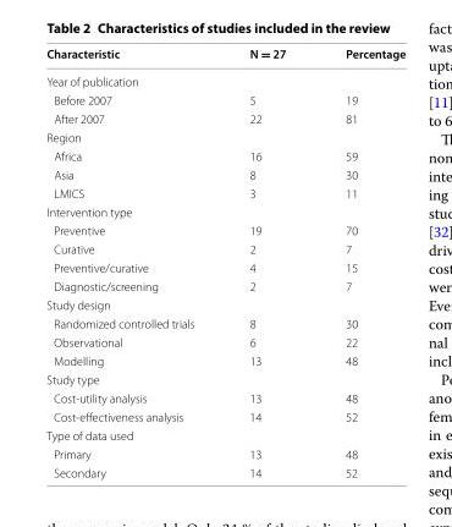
<table><thead><tr><td>Characteristic</td><td>N = 27</td><td>Percentage</td></tr></thead><tbody><tr><td colspan="3">Year of publication</td></tr><tr><td>Before 2007</td><td>5</td><td>19</td></tr><tr><td>After 2007</td><td>22</td><td>81</td></tr><tr><td colspan="3">Region</td></tr><tr><td>Africa</td><td>16</td><td>59</td></tr><tr><td>Asia</td><td>8</td><td>30</td></tr><tr><td>LMICS</td><td>3</td><td>11</td></tr><tr><td colspan="3">Intervention type</td></tr><tr><td>Preventive</td><td>19</td><td>70</td></tr><tr><td>Curative</td><td>2</td><td>7</td></tr><tr><td>Preventive/curative</td><td>4</td><td>15</td></tr><tr><td>Diagnostic/screening</td><td>2</td><td>7</td></tr><tr><td colspan="3">Study design</td></tr><tr><td>Randomized controlled trials</td><td>8</td><td>30</td></tr><tr><td>Observational</td><td>6</td><td>22</td></tr><tr><td>Modelling</td><td>13</td><td>48</td></tr><tr><td colspan="3">Study type</td></tr><tr><td>Cost-utility analysis</td><td>13</td><td>48</td></tr><tr><td>Cost-effectiveness analysis</td><td>14</td><td>52</td></tr><tr><td colspan="3">Type of data used</td></tr><tr><td>Primary</td><td>13</td><td>48</td></tr><tr><td>Secondary</td><td>14</td><td>52</td></tr></tbody></table>